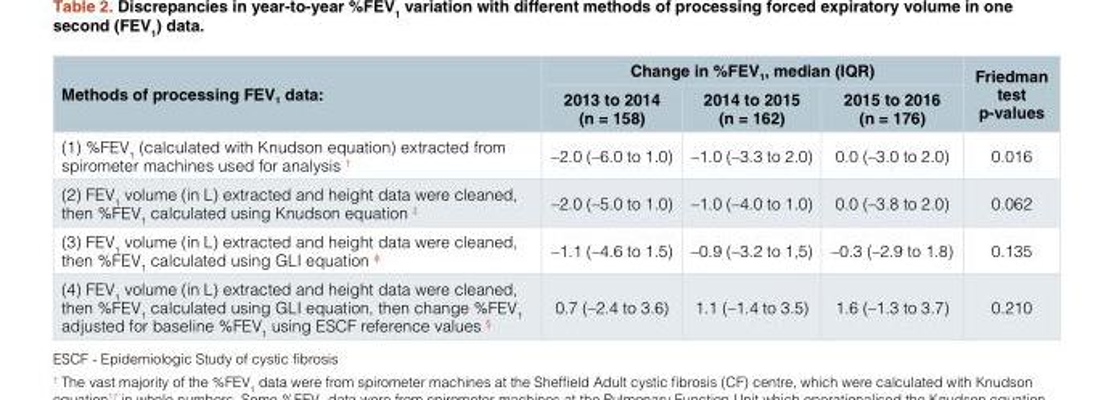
<table><thead><tr><td rowspan="2">Methods of processing FEV<sub>1</sub> data:</td><td colspan="3">Change in %FEV<sub>1</sub>, median (IQR)</td><td rowspan="2">Friedman test p-values</td></tr><tr><td>2013 to 2014 (n = 158)</td><td>2014 to 2015 (n = 162)</td><td>2015 to 2016 (n = 176)</td></tr></thead><tbody><tr><td>(1) %FEV<sub>1</sub> (calculated with Knudson equation) extracted from spirometer machines used for analysis <sup>†</sup></td><td>–2.0 (–6.0 to 1.0)</td><td>–1.0 (–3.3 to 2.0)</td><td>0.0 (–3.0 to 2.0)</td><td>0.016</td></tr><tr><td>(2) FEV<sub>1</sub> volume (in L) extracted and height data were cleaned, then %FEV<sub>1</sub> calculated using Knudson equation <sup>‡</sup></td><td>–2.0 (–5.0 to 1.0)</td><td>–1.0 (–4.0 to 1.0)</td><td>0.0 (–3.8 to 2.0)</td><td>0.062</td></tr><tr><td>(3) FEV<sub>1</sub> volume (in L) extracted and height data were cleaned, then %FEV<sub>1</sub> calculated using GLI equation <sup>ϕ</sup></td><td>–1.1 (–4.6 to 1.5)</td><td>–0.9 (–3.2 to 1,5)</td><td>–0.3 (–2.9 to 1.8)</td><td>0.135</td></tr><tr><td>(4) FEV<sub>1</sub> volume (in L) extracted and height data were cleaned, then %FEV<sub>1</sub> calculated using GLI equation, then change %FEV<sub>1</sub> adjusted for baseline %FEV<sub>1</sub> using ESCF reference values <sup>§</sup></td><td>0.7 (–2.4 to 3.6)</td><td>1.1 (–1.4 to 3.5)</td><td>1.6 (–1.3 to 3.7)</td><td>0.210</td></tr></tbody></table>